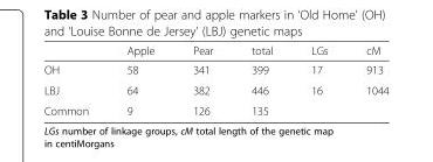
<table><thead><tr><td></td><td>Apple</td><td>Pear</td><td>total</td><td>LGs</td><td>cM</td></tr></thead><tbody><tr><td>OH</td><td>58</td><td>341</td><td>399</td><td>17</td><td>913</td></tr><tr><td>LBJ</td><td>64</td><td>382</td><td>446</td><td>16</td><td>1044</td></tr><tr><td>Common</td><td>9</td><td>126</td><td>135</td><td></td><td></td></tr></tbody></table>